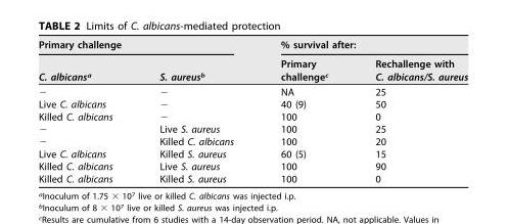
<table><thead><tr><td colspan="2">Primary challenge</td><td colspan="2">% survival after:</td></tr><tr><td>C. albicans<sup>a</sup></td><td>S. aureus<sup>b</sup></td><td>Primary challenge<sup>c</sup></td><td>Rechallenge with C. albicans/S. aureus</td></tr></thead><tbody><tr><td>−</td><td>−</td><td>NA</td><td>25</td></tr><tr><td>Live C. albicans</td><td>−</td><td>40 (9)</td><td>50</td></tr><tr><td>Killed C. albicans</td><td>−</td><td>100</td><td>0</td></tr><tr><td>−</td><td>Live S. aureus</td><td>100</td><td>25</td></tr><tr><td>−</td><td>Killed C. albicans</td><td>100</td><td>20</td></tr><tr><td>Live C. albicans</td><td>Killed S. aureus</td><td>60 (5)</td><td>15</td></tr><tr><td>Killed C. albicans</td><td>Live S. aureus</td><td>100</td><td>90</td></tr><tr><td>Killed C. albicans</td><td>Killed S. aureus</td><td>100</td><td>0</td></tr></tbody></table>